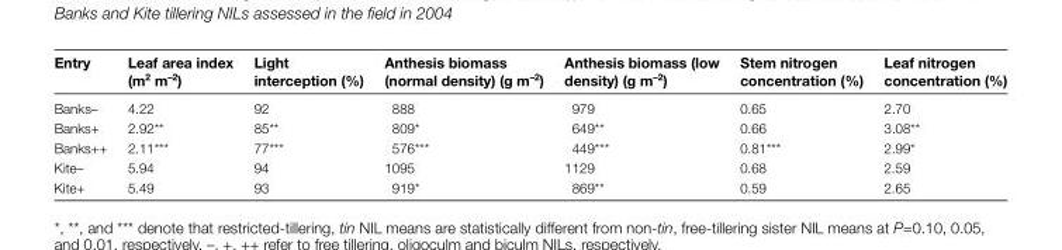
<table><thead><tr><td>Entry</td><td>Leaf area index (m<sup>2</sup> m<sup>–2</sup>)</td><td>Light interception (%)</td><td>Anthesis biomass (normal density) (g m<sup>–2</sup>)</td><td>Anthesis biomass (low density) (g m<sup>–2</sup>)</td><td>Stem nitrogen concentration (%)</td><td>Leaf nitrogen concentration (%)</td></tr></thead><tbody><tr><td>Banks–</td><td>4.22</td><td>92</td><td>888</td><td>979</td><td>0.65</td><td>2.70</td></tr><tr><td>Banks+</td><td>2.92**</td><td>85**</td><td>809*</td><td>649**</td><td>0.66</td><td>3.08**</td></tr><tr><td>Banks++</td><td>2.11***</td><td>77***</td><td>576***</td><td>449***</td><td>0.81***</td><td>2.99*</td></tr><tr><td>Kite–</td><td>5.94</td><td>94</td><td>1095</td><td>1129</td><td>0.68</td><td>2.59</td></tr><tr><td>Kite+</td><td>5.49</td><td>93</td><td>919*</td><td>869**</td><td>0.59</td><td>2.65</td></tr></tbody></table>